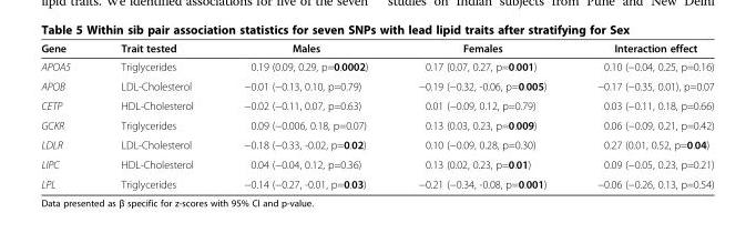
<table><thead><tr><td>Gene</td><td>Trait tested</td><td>Males</td><td>Females</td><td>Interaction effect</td></tr></thead><tbody><tr><td>APOA5</td><td>Triglycerides</td><td>0.19 (0.09, 0.29, p=0.0002)</td><td>0.17 (0.07, 0.27, p=0.001)</td><td>0.10 (−0.04, 0.25, p=0.16)</td></tr><tr><td>APOB</td><td>LDL-Cholesterol</td><td>−0.01 (−0.13, 0.10, p=0.79)</td><td>−0.19 (−0.32, -0.06, p=0.005)</td><td>−0.17 (−0.35, 0.01), p=0.07</td></tr><tr><td>CETP</td><td>HDL-Cholesterol</td><td>−0.02 (−0.11, 0.07, p=0.63)</td><td>0.01 (−0.09, 0.12, p=0.79)</td><td>0.03 (−0.11, 0.18, p=0.66)</td></tr><tr><td>GCKR</td><td>Triglycerides</td><td>0.09 (−0.006, 0.18, p=0.07)</td><td>0.13 (0.03, 0.23, p=0.009)</td><td>0.06 (−0.09, 0.21, p=0.42)</td></tr><tr><td>LDLR</td><td>LDL-Cholesterol</td><td>−0.18 (−0.33, -0.02, p=0.02)</td><td>0.10 (−0.09, 0.28, p=0.30)</td><td>0.27 (0.01, 0.52, p=0.04)</td></tr><tr><td>LIPC</td><td>HDL-Cholesterol</td><td>0.04 (−0.04, 0.12, p=0.36)</td><td>0.13 (0.02, 0.23, p=0.01)</td><td>0.09 (−0.05, 0.23, p=0.21)</td></tr><tr><td>LPL</td><td>Triglycerides</td><td>−0.14 (−0.27, -0.01, p=0.03)</td><td>−0.21 (−0.34, -0.08, p=0.001)</td><td>−0.06 (−0.26, 0.13, p=0.54)</td></tr></tbody></table>